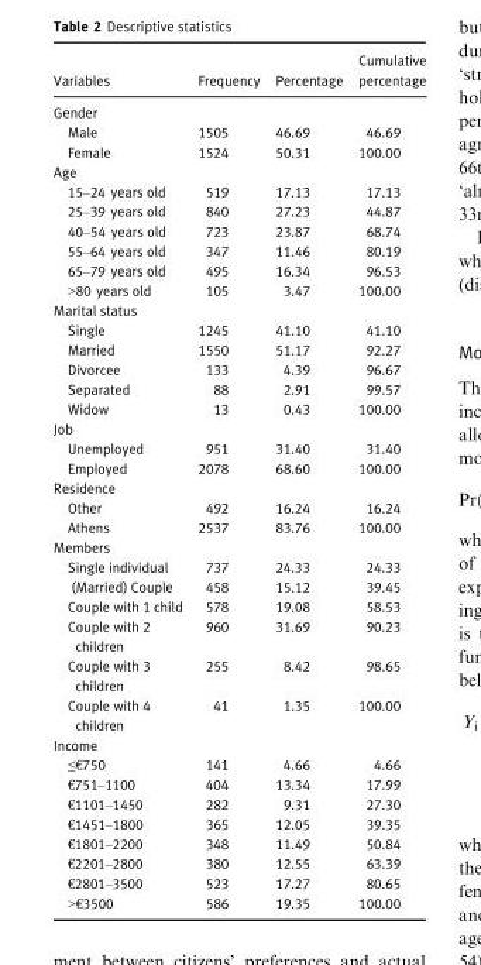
<table><thead><tr><td>Variables</td><td>Frequency</td><td>Percentage</td><td>Cumulative percentage</td></tr></thead><tbody><tr><td colspan="4">Gender</td></tr><tr><td>Male</td><td>1505</td><td>46.69</td><td>46.69</td></tr><tr><td>Female</td><td>1524</td><td>50.31</td><td>100.00</td></tr><tr><td colspan="4">Age</td></tr><tr><td>15–24 years old</td><td>519</td><td>17.13</td><td>17.13</td></tr><tr><td>25–39 years old</td><td>840</td><td>27.23</td><td>44.87</td></tr><tr><td>40–54 years old</td><td>723</td><td>23.87</td><td>68.74</td></tr><tr><td>55–64 years old</td><td>347</td><td>11.46</td><td>80.19</td></tr><tr><td>65–79 years old</td><td>495</td><td>16.34</td><td>96.53</td></tr><tr><td>&gt;80 years old</td><td>105</td><td>3.47</td><td>100.00</td></tr><tr><td colspan="4">Marital status</td></tr><tr><td>Single</td><td>1245</td><td>41.10</td><td>41.10</td></tr><tr><td>Married</td><td>1550</td><td>51.17</td><td>92.27</td></tr><tr><td>Divorcee</td><td>133</td><td>4.39</td><td>96.67</td></tr><tr><td>Separated</td><td>88</td><td>2.91</td><td>99.57</td></tr><tr><td>Widow</td><td>13</td><td>0.43</td><td>100.00</td></tr><tr><td colspan="4">Job</td></tr><tr><td>Unemployed</td><td>951</td><td>31.40</td><td>31.40</td></tr><tr><td>Employed</td><td>2078</td><td>68.60</td><td>100.00</td></tr><tr><td colspan="4">Residence</td></tr><tr><td>Other</td><td>492</td><td>16.24</td><td>16.24</td></tr><tr><td>Athens</td><td>2537</td><td>83.76</td><td>100.00</td></tr><tr><td colspan="4">Members</td></tr><tr><td>Single individual</td><td>737</td><td>24.33</td><td>24.33</td></tr><tr><td>(Married) Couple</td><td>458</td><td>15.12</td><td>39.45</td></tr><tr><td>Couple with 1 child</td><td>578</td><td>19.08</td><td>58.53</td></tr><tr><td>Couple with 2 children</td><td>960</td><td>31.69</td><td>90.23</td></tr><tr><td>Couple with 3 children</td><td>255</td><td>8.42</td><td>98.65</td></tr><tr><td>Couple with 4 children</td><td>41</td><td>1.35</td><td>100.00</td></tr><tr><td colspan="4">Income</td></tr><tr><td>≤€750</td><td>141</td><td>4.66</td><td>4.66</td></tr><tr><td>€751–1100</td><td>404</td><td>13.34</td><td>17.99</td></tr><tr><td>€1101–1450</td><td>282</td><td>9.31</td><td>27.30</td></tr><tr><td>€1451–1800</td><td>365</td><td>12.05</td><td>39.35</td></tr><tr><td>€1801–2200</td><td>348</td><td>11.49</td><td>50.84</td></tr><tr><td>€2201–2800</td><td>380</td><td>12.55</td><td>63.39</td></tr><tr><td>€2801–3500</td><td>523</td><td>17.27</td><td>80.65</td></tr><tr><td>&gt;€3500</td><td>586</td><td>19.35</td><td>100.00</td></tr></tbody></table>